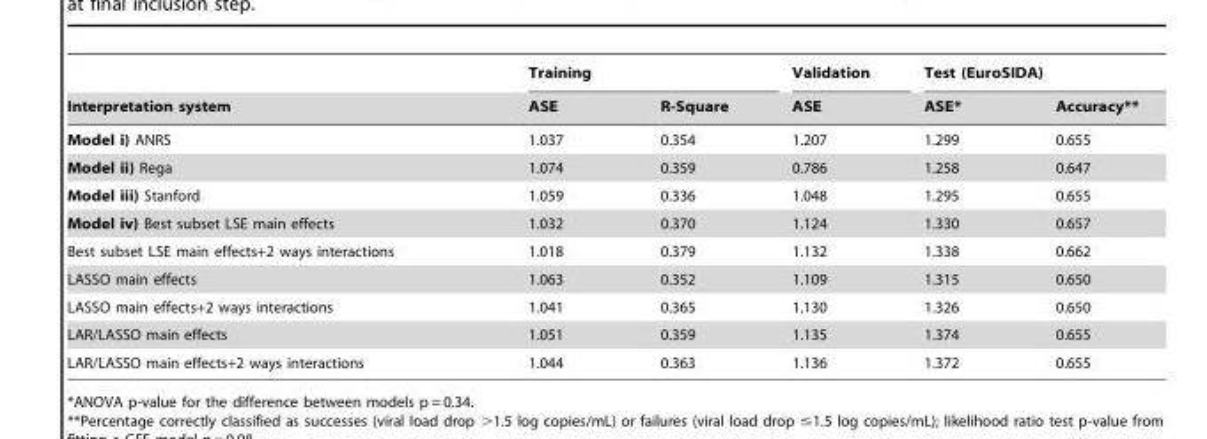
<table><thead><tr><td rowspan="2">Interpretation system</td><td colspan="2">Training</td><td rowspan="2">Validation ASE</td><td colspan="2">Test (EuroSIDA)</td></tr><tr><td>ASE</td><td>R-Square</td><td>ASE*</td><td>Accuracy**</td></tr></thead><tbody><tr><td>Model i) ANRS</td><td>1.037</td><td>0.354</td><td>1.207</td><td>1.299</td><td>0.655</td></tr><tr><td>Model ii) Rega</td><td>1.074</td><td>0.359</td><td>0.786</td><td>1.258</td><td>0.647</td></tr><tr><td>Model iii) Stanford</td><td>1.059</td><td>0.336</td><td>1.048</td><td>1.295</td><td>0.655</td></tr><tr><td>Model iv) Best subset LSE main effects</td><td>1.032</td><td>0.370</td><td>1.124</td><td>1.330</td><td>0.657</td></tr><tr><td>Best subset LSE main effects+2 ways interactions</td><td>1.018</td><td>0.379</td><td>1.132</td><td>1.338</td><td>0.662</td></tr><tr><td>LASSO main effects</td><td>1.063</td><td>0.352</td><td>1.109</td><td>1.315</td><td>0.650</td></tr><tr><td>LASSO main effects+2 ways interactions</td><td>1.041</td><td>0.365</td><td>1.130</td><td>1.326</td><td>0.650</td></tr><tr><td>LAR/LASSO main effects</td><td>1.051</td><td>0.359</td><td>1.135</td><td>1.374</td><td>0.655</td></tr><tr><td>LAR/LASSO main effects+2 ways interactions</td><td>1.044</td><td>0.363</td><td>1.136</td><td>1.372</td><td>0.655</td></tr></tbody></table>